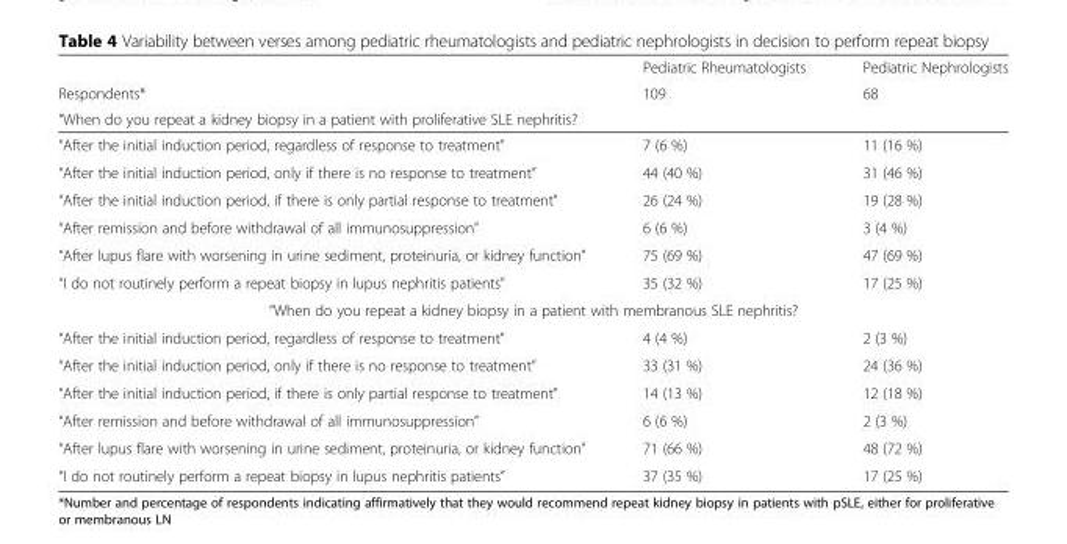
<table><thead><tr><td rowspan="2">Respondents*</td><td rowspan="2">Pediatric Rheumatologists 109</td><td rowspan="2">Pediatric Nephrologists 68</td></tr><tr></tr><tr><td colspan="3">“When do you repeat a kidney biopsy in a patient with proliferative SLE nephritis?</td></tr></thead><tbody><tr><td>“After the initial induction period, regardless of response to treatment”</td><td>7 (6 %)</td><td>11 (16 %)</td></tr><tr><td>“After the initial induction period, only if there is no response to treatment”</td><td>44 (40 %)</td><td>31 (46 %)</td></tr><tr><td>“After the initial induction period, if there is only partial response to treatment”</td><td>26 (24 %)</td><td>19 (28 %)</td></tr><tr><td>“After remission and before withdrawal of all immunosuppression”</td><td>6 (6 %)</td><td>3 (4 %)</td></tr><tr><td>“After lupus flare with worsening in urine sediment, proteinuria, or kidney function”</td><td>75 (69 %)</td><td>47 (69 %)</td></tr><tr><td>“I do not routinely perform a repeat biopsy in lupus nephritis patients”</td><td>35 (32 %)</td><td>17 (25 %)</td></tr><tr><td colspan="3">“When do you repeat a kidney biopsy in a patient with membranous SLE nephritis?</td></tr><tr><td>“After the initial induction period, regardless of response to treatment”</td><td>4 (4 %)</td><td>2 (3 %)</td></tr><tr><td>“After the initial induction period, only if there is no response to treatment”</td><td>33 (31 %)</td><td>24 (36 %)</td></tr><tr><td>“After the initial induction period, if there is only partial response to treatment”</td><td>14 (13 %)</td><td>12 (18 %)</td></tr><tr><td>“After remission and before withdrawal of all immunosuppression”</td><td>6 (6 %)</td><td>2 (3 %)</td></tr><tr><td>“After lupus flare with worsening in urine sediment, proteinuria, or kidney function”</td><td>71 (66 %)</td><td>48 (72 %)</td></tr><tr><td>“I do not routinely perform a repeat biopsy in lupus nephritis patients”</td><td>37 (35 %)</td><td>17 (25 %)</td></tr></tbody></table>